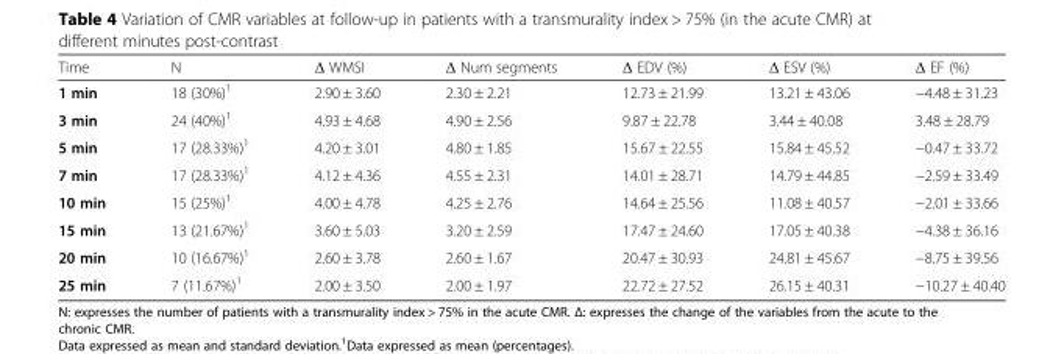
<table><thead><tr><td>Time</td><td>N</td><td>Δ WMSI</td><td>Δ Num segments</td><td>Δ EDV (%)</td><td>Δ ESV (%)</td><td>Δ EF (%)</td></tr></thead><tbody><tr><td>1 min</td><td>18 (30%)<sup>1</sup></td><td>2.90 ± 3.60</td><td>2.30 ± 2.21</td><td>12.73 ± 21.99</td><td>13.21 ± 43.06</td><td>−4.48 ± 31.23</td></tr><tr><td>3 min</td><td>24 (40%)<sup>1</sup></td><td>4.93 ± 4.68</td><td>4.90 ± 2.56</td><td>9.87 ± 22.78</td><td>3.44 ± 40.08</td><td>3.48 ± 28.79</td></tr><tr><td>5 min</td><td>17 (28.33%)<sup>1</sup></td><td>4.20 ± 3.01</td><td>4.80 ± 1.85</td><td>15.67 ± 22.55</td><td>15.84 ± 45.52</td><td>−0.47 ± 33.72</td></tr><tr><td>7 min</td><td>17 (28.33%)<sup>1</sup></td><td>4.12 ± 4.36</td><td>4.55 ± 2.31</td><td>14.01 ± 28.71</td><td>14.79 ± 44.85</td><td>−2.59 ± 33.49</td></tr><tr><td>10 min</td><td>15 (25%)<sup>1</sup></td><td>4.00 ± 4.78</td><td>4.25 ± 2.76</td><td>14.64 ± 25.56</td><td>11.08 ± 40.57</td><td>−2.01 ± 33.66</td></tr><tr><td>15 min</td><td>13 (21.67%)<sup>1</sup></td><td>3.60 ± 5.03</td><td>3.20 ± 2.59</td><td>17.47 ± 24.60</td><td>17.05 ± 40.38</td><td>−4.38 ± 36.16</td></tr><tr><td>20 min</td><td>10 (16.67%)<sup>1</sup></td><td>2.60 ± 3.78</td><td>2.60 ± 1.67</td><td>20.47 ± 30.93</td><td>24.81 ± 45.67</td><td>−8.75 ± 39.56</td></tr><tr><td>25 min</td><td>7 (11.67%)<sup>1</sup></td><td>2.00 ± 3.50</td><td>2.00 ± 1.97</td><td>22.72 ± 27.52</td><td>26.15 ± 40.31</td><td>−10.27 ± 40.40</td></tr></tbody></table>